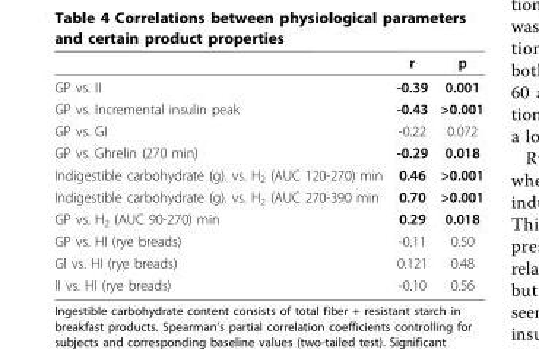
<table><thead><tr><td></td><td>r</td><td>p</td></tr></thead><tbody><tr><td>GP vs. II</td><td>-0.39</td><td>0.001</td></tr><tr><td>GP vs. Incremental insulin peak</td><td>-0.43</td><td>&gt;0.001</td></tr><tr><td>GP vs. GI</td><td>-0.22</td><td>0.072</td></tr><tr><td>GP vs. Ghrelin (270 min)</td><td>-0.29</td><td>0.018</td></tr><tr><td>Indigestible carbohydrate (g). vs. H<sub>2</sub> (AUC 120-270) min</td><td>0.46</td><td>&gt;0.001</td></tr><tr><td>Indigestible carbohydrate (g). vs. H<sub>2</sub> (AUC 270-390 min</td><td>0.70</td><td>&gt;0.001</td></tr><tr><td>GP vs. H<sub>2</sub> (AUC 90-270) min</td><td>0.29</td><td>0.018</td></tr><tr><td>GP vs. HI (rye breads)</td><td>-0.11</td><td>0.50</td></tr><tr><td>GI vs. HI (rye breads)</td><td>0.121</td><td>0.48</td></tr><tr><td>II vs. HI (rye breads)</td><td>-0.10</td><td>0.56</td></tr></tbody></table>